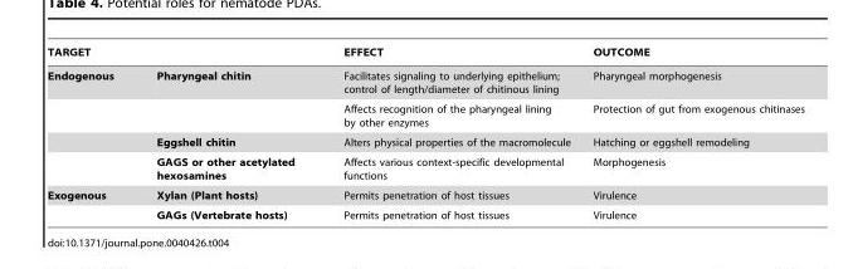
<table><thead><tr><td colspan="2">TARGET</td><td rowspan="2">EFFECT Facilitates signaling to underlying epithelium; control of length/diameter of chitinous lining</td><td rowspan="2">OUTCOME Pharyngeal morphogenesis</td></tr><tr><td>Endogenous</td><td>Pharyngeal chitin</td></tr></thead><tbody><tr><td></td><td></td><td>Affects recognition of the pharyngeal lining by other enzymes</td><td>Protection of gut from exogenous chitinases</td></tr><tr><td></td><td>Eggshell chitin</td><td>Alters physical properties of the macromolecule</td><td>Hatching or eggshell remodeling</td></tr><tr><td></td><td>GAGS or other acetylated hexosamines</td><td>Affects various context-specific developmental functions</td><td>Morphogenesis</td></tr><tr><td rowspan="2">Exogenous</td><td>Xylan (Plant hosts)</td><td>Permits penetration of host tissues</td><td>Virulence</td></tr><tr><td>GAGs (Vertebrate hosts)</td><td>Permits penetration of host tissues</td><td>Virulence</td></tr></tbody></table>